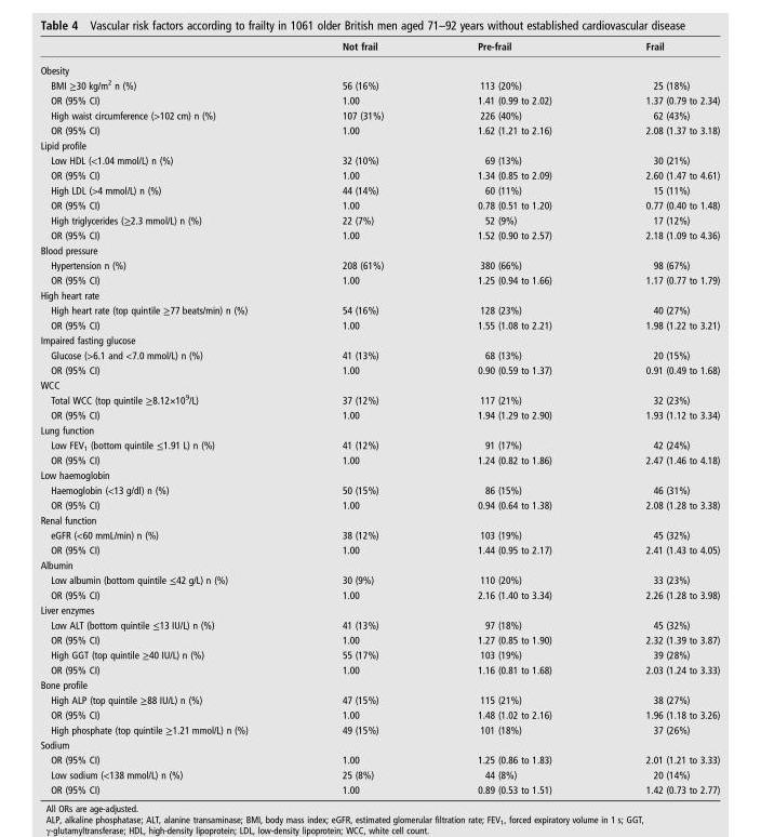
<table><thead><tr><td></td><td>Not frail</td><td>Pre-frail</td><td>Frail</td></tr></thead><tbody><tr><td colspan="4">Obesity</td></tr><tr><td>BMI ≥30 kg/m<sup>2</sup> n (%)</td><td>56 (16%)</td><td>113 (20%)</td><td>25 (18%)</td></tr><tr><td>OR (95% CI)</td><td>1.00</td><td>1.41 (0.99 to 2.02)</td><td>1.37 (0.79 to 2.34)</td></tr><tr><td>High waist circumference (&gt;102 cm) n (%)</td><td>107 (31%)</td><td>226 (40%)</td><td>62 (43%)</td></tr><tr><td>OR (95% CI)</td><td>1.00</td><td>1.62 (1.21 to 2.16)</td><td>2.08 (1.37 to 3.18)</td></tr><tr><td colspan="4">Lipid profile</td></tr><tr><td>Low HDL (&lt;1.04 mmol/L) n (%)</td><td>32 (10%)</td><td>69 (13%)</td><td>30 (21%)</td></tr><tr><td>OR (95% CI)</td><td>1.00</td><td>1.34 (0.85 to 2.09)</td><td>2.60 (1.47 to 4.61)</td></tr><tr><td>High LDL (&gt;4 mmol/L) n (%)</td><td>44 (14%)</td><td>60 (11%)</td><td>15 (11%)</td></tr><tr><td>OR (95% CI)</td><td>1.00</td><td>0.78 (0.51 to 1.20)</td><td>0.77 (0.40 to 1.48)</td></tr><tr><td>High triglycerides (≥2.3 mmol/L) n (%)</td><td>22 (7%)</td><td>52 (9%)</td><td>17 (12%)</td></tr><tr><td>OR (95% CI)</td><td>1.00</td><td>1.52 (0.90 to 2.57)</td><td>2.18 (1.09 to 4.36)</td></tr><tr><td colspan="4">Blood pressure</td></tr><tr><td>Hypertension n (%)</td><td>208 (61%)</td><td>380 (66%)</td><td>98 (67%)</td></tr><tr><td>OR (95% CI)</td><td>1.00</td><td>1.25 (0.94 to 1.66)</td><td>1.17 (0.77 to 1.79)</td></tr><tr><td colspan="4">High heart rate</td></tr><tr><td>High heart rate (top quintile ≥77 beats/min) n (%)</td><td>54 (16%)</td><td>128 (23%)</td><td>40 (27%)</td></tr><tr><td>OR (95% CI)</td><td>1.00</td><td>1.55 (1.08 to 2.21)</td><td>1.98 (1.22 to 3.21)</td></tr><tr><td colspan="4">Impaired fasting glucose</td></tr><tr><td>Glucose (&gt;6.1 and &lt;7.0 mmol/L) n (%)</td><td>41 (13%)</td><td>68 (13%)</td><td>20 (15%)</td></tr><tr><td>OR (95% CI)</td><td>1.00</td><td>0.90 (0.59 to 1.37)</td><td>0.91 (0.49 to 1.68)</td></tr><tr><td colspan="4">WCC</td></tr><tr><td>Total WCC (top quintile ≥8.12×10<sup>9</sup>/L)</td><td>37 (12%)</td><td>117 (21%)</td><td>32 (23%)</td></tr><tr><td>OR (95% CI)</td><td>1.00</td><td>1.94 (1.29 to 2.90)</td><td>1.93 (1.12 to 3.34)</td></tr><tr><td colspan="4">Lung function</td></tr><tr><td>Low FEV<sub>1</sub> (bottom quintile ≤1.91 L) n (%)</td><td>41 (12%)</td><td>91 (17%)</td><td>42 (24%)</td></tr><tr><td>OR (95% CI)</td><td>1.00</td><td>1.24 (0.82 to 1.86)</td><td>2.47 (1.46 to 4.18)</td></tr><tr><td colspan="4">Low haemoglobin</td></tr><tr><td>Haemoglobin (&lt;13 g/dl) n (%)</td><td>50 (15%)</td><td>86 (15%)</td><td>46 (31%)</td></tr><tr><td>OR (95% CI)</td><td>1.00</td><td>0.94 (0.64 to 1.38)</td><td>2.08 (1.28 to 3.38)</td></tr><tr><td colspan="4">Renal function</td></tr><tr><td>eGFR (&lt;60 mmL/min) n (%)</td><td>38 (12%)</td><td>103 (19%)</td><td>45 (32%)</td></tr><tr><td>OR (95% CI)</td><td>1.00</td><td>1.44 (0.95 to 2.17)</td><td>2.41 (1.43 to 4.05)</td></tr><tr><td colspan="4">Albumin</td></tr><tr><td>Low albumin (bottom quintile ≤42 g/L) n (%)</td><td>30 (9%)</td><td>110 (20%)</td><td>33 (23%)</td></tr><tr><td>OR (95% CI)</td><td>1.00</td><td>2.16 (1.40 to 3.34)</td><td>2.26 (1.28 to 3.98)</td></tr><tr><td colspan="4">Liver enzymes</td></tr><tr><td>Low ALT (bottom quintile ≤13 IU/L) n (%)</td><td>41 (13%)</td><td>97 (18%)</td><td>45 (32%)</td></tr><tr><td>OR (95% CI)</td><td>1.00</td><td>1.27 (0.85 to 1.90)</td><td>2.32 (1.39 to 3.87)</td></tr><tr><td>High GGT (top quintile ≥40 IU/L) n (%)</td><td>55 (17%)</td><td>103 (19%)</td><td>39 (28%)</td></tr><tr><td>OR (95% CI)</td><td>1.00</td><td>1.16 (0.81 to 1.68)</td><td>2.03 (1.24 to 3.33)</td></tr><tr><td colspan="4">Bone profile</td></tr><tr><td>High ALP (top quintile ≥88 IU/L) n (%)</td><td>47 (15%)</td><td>115 (21%)</td><td>38 (27%)</td></tr><tr><td>OR (95% CI)</td><td>1.00</td><td>1.48 (1.02 to 2.16)</td><td>1.96 (1.18 to 3.26)</td></tr><tr><td>High phosphate (top quintile ≥1.21 mmol/L) n (%)</td><td>49 (15%)</td><td>101 (18%)</td><td>37 (26%)</td></tr><tr><td colspan="4">Sodium</td></tr><tr><td>OR (95% CI)</td><td>1.00</td><td>1.25 (0.86 to 1.83)</td><td>2.01 (1.21 to 3.33)</td></tr><tr><td>Low sodium (&lt;138 mmol/L) n (%)</td><td>25 (8%)</td><td>44 (8%)</td><td>20 (14%)</td></tr><tr><td>OR (95% CI)</td><td>1.00</td><td>0.89 (0.53 to 1.51)</td><td>1.42 (0.73 to 2.77)</td></tr></tbody></table>